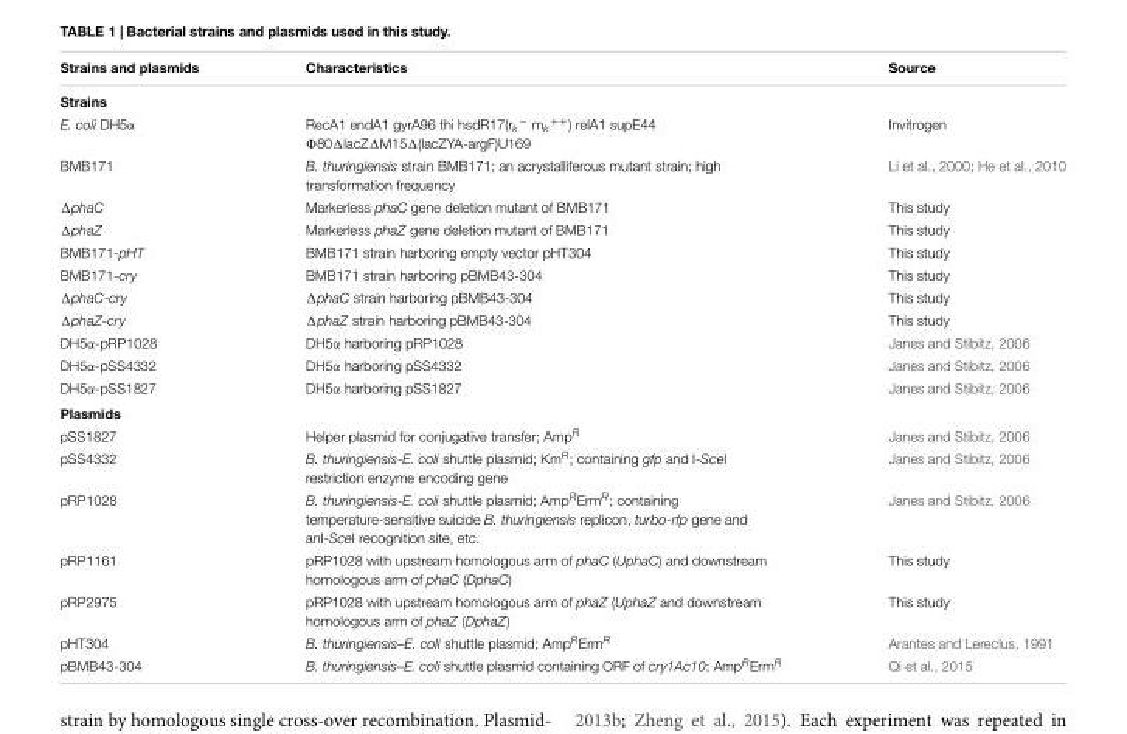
<table><thead><tr><td>Strains and plasmids</td><td>Characteristics</td><td>Source</td></tr></thead><tbody><tr><td colspan="3">Strains</td></tr><tr><td>E. coli DH5α</td><td>RecA1 endA1 gyrA96 thi hsdR17(r<sub>k</sub><sup>−</sup> m<sub>k</sub><sup>++</sup>) relA1 supE44 Φ80ΔlacZΔM15Δ(lacZYA-argF)U169</td><td>Invitrogen</td></tr><tr><td>BMB171</td><td>B. thuringiensis strain BMB171; an acrystalliferous mutant strain; high transformation frequency</td><td>Li et al., 2000; He et al., 2010</td></tr><tr><td>ΔphaC</td><td>Markerless phaC gene deletion mutant of BMB171</td><td>This study</td></tr><tr><td>ΔphaZ</td><td>Markerless phaZ gene deletion mutant of BMB171</td><td>This study</td></tr><tr><td>BMB171-pHT</td><td>BMB171 strain harboring empty vector pHT304</td><td>This study</td></tr><tr><td>BMB171-cry</td><td>BMB171 strain harboring pBMB43-304</td><td>This study</td></tr><tr><td>ΔphaC-cry</td><td>ΔphaC strain harboring pBMB43-304</td><td>This study</td></tr><tr><td>ΔphaZ-cry</td><td>ΔphaZ strain harboring pBMB43-304</td><td>This study</td></tr><tr><td>DH5α-pRP1028</td><td>DH5α harboring pRP1028</td><td>Janes and Stibitz, 2006</td></tr><tr><td>DH5α-pSS4332</td><td>DH5α harboring pSS4332</td><td>Janes and Stibitz, 2006</td></tr><tr><td>DH5α-pSS1827</td><td>DH5α harboring pSS1827</td><td>Janes and Stibitz, 2006</td></tr><tr><td colspan="3">Plasmids</td></tr><tr><td>pSS1827</td><td>Helper plasmid for conjugative transfer; Amp<sup>R</sup></td><td>Janes and Stibitz, 2006</td></tr><tr><td>pSS4332</td><td>B. thuringiensis-E. coli shuttle plasmid; Km<sup>R</sup>; containing gfp and I-SceI restriction enzyme encoding gene</td><td>Janes and Stibitz, 2006</td></tr><tr><td>pRP1028</td><td>B. thuringiensis-E. coli shuttle plasmid; Amp<sup>R</sup>Erm<sup>R</sup>; containing temperature-sensitive suicide B. thuringiensis replicon, turbo-rfp gene and anI-SceI recognition site, etc.</td><td>Janes and Stibitz, 2006</td></tr><tr><td>pRP1161</td><td>pRP1028 with upstream homologous arm of phaC (UphaC) and downstream homologous arm of phaC (DphaC)</td><td>This study</td></tr><tr><td>pRP2975</td><td>pRP1028 with upstream homologous arm of phaZ (UphaZ and downstream homologous arm of phaZ (DphaZ)</td><td>This study</td></tr><tr><td>pHT304</td><td>B. thuringiensis–E. coli shuttle plasmid; Amp<sup>R</sup>Erm<sup>R</sup></td><td>Arantes and Lereclus, 1991</td></tr><tr><td>pBMB43-304</td><td>B. thuringiensis–E. coli shuttle plasmid containing ORF of cry1Ac10; Amp<sup>R</sup>Erm<sup>R</sup></td><td>Qi et al., 2015</td></tr></tbody></table>